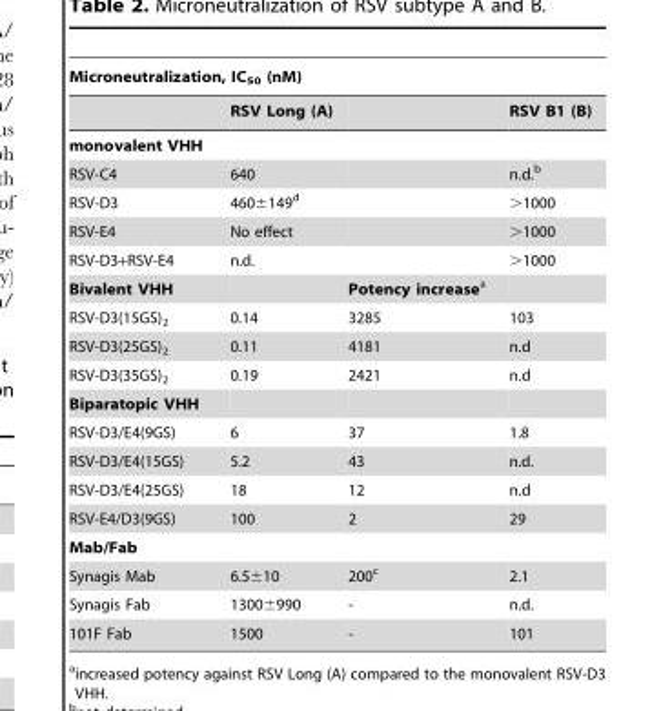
<table><thead><tr><td colspan="4">Microneutralization, IC<sub>50</sub> (nM)</td></tr><tr><td></td><td>RSV Long (A)</td><td></td><td>RSV B1 (B)</td></tr></thead><tbody><tr><td colspan="4">monovalent VHH</td></tr><tr><td>RSV-C4</td><td>640</td><td></td><td>n.d.<sup>b</sup></td></tr><tr><td>RSV-D3</td><td>460±149<sup>d</sup></td><td></td><td>&gt;1000</td></tr><tr><td>RSV-E4</td><td>No effect</td><td></td><td>&gt;1000</td></tr><tr><td>RSV-D3+RSV-E4</td><td>n.d.</td><td></td><td>&gt;1000</td></tr><tr><td>Bivalent VHH</td><td></td><td>Potency increasea</td><td></td></tr><tr><td>RSV-D3(15GS)<sub>2</sub></td><td>0.14</td><td>3285</td><td>103</td></tr><tr><td>RSV-D3(25GS)<sub>2</sub></td><td>0.11</td><td>4181</td><td>n.d</td></tr><tr><td>RSV-D3(35GS)<sub>2</sub></td><td>0.19</td><td>2421</td><td>n.d</td></tr><tr><td colspan="4">Biparatopic VHH</td></tr><tr><td>RSV-D3/E4(9GS)</td><td>6</td><td>37</td><td>1.8</td></tr><tr><td>RSV-D3/E4(15GS)</td><td>5.2</td><td>43</td><td>n.d.</td></tr><tr><td>RSV-D3/E4(25GS)</td><td>18</td><td>12</td><td>n.d</td></tr><tr><td>RSV-E4/D3(9GS)</td><td>100</td><td>2</td><td>29</td></tr><tr><td colspan="4">Mab/Fab</td></tr><tr><td>Synagis Mab</td><td>6.5±10</td><td>200<sup>c</sup></td><td>2.1</td></tr><tr><td>Synagis Fab</td><td>1300±990</td><td>-</td><td>n.d.</td></tr><tr><td>101F Fab</td><td>1500</td><td>-</td><td>101</td></tr></tbody></table>